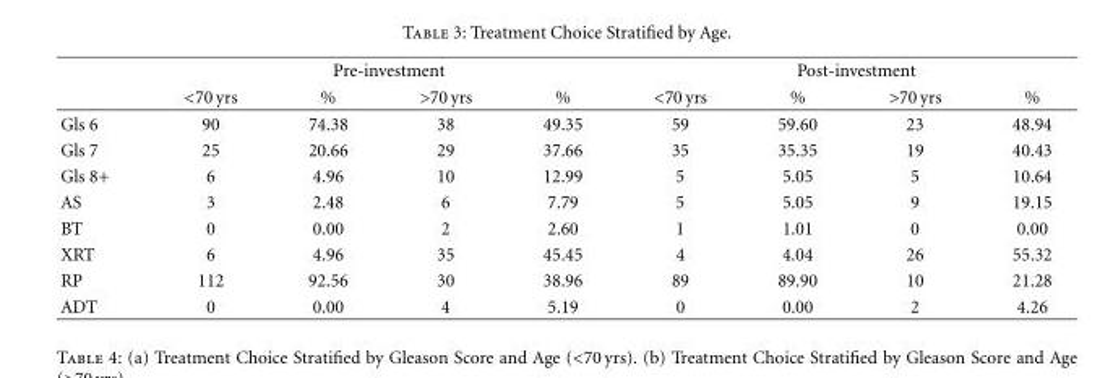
<table><thead><tr><td rowspan="2"></td><td colspan="4">Pre-investment</td><td colspan="4">Post-investment</td></tr><tr><td>&lt;70 yrs</td><td>%</td><td>&gt;70 yrs</td><td>%</td><td>&lt;70 yrs</td><td>%</td><td>&gt;70 yrs</td><td>%</td></tr></thead><tbody><tr><td>Gls 6</td><td>90</td><td>74.38</td><td>38</td><td>49.35</td><td>59</td><td>59.60</td><td>23</td><td>48.94</td></tr><tr><td>Gls 7</td><td>25</td><td>20.66</td><td>29</td><td>37.66</td><td>35</td><td>35.35</td><td>19</td><td>40.43</td></tr><tr><td>Gls 8+</td><td>6</td><td>4.96</td><td>10</td><td>12.99</td><td>5</td><td>5.05</td><td>5</td><td>10.64</td></tr><tr><td>AS</td><td>3</td><td>2.48</td><td>6</td><td>7.79</td><td>5</td><td>5.05</td><td>9</td><td>19.15</td></tr><tr><td>BT</td><td>0</td><td>0.00</td><td>2</td><td>2.60</td><td>1</td><td>1.01</td><td>0</td><td>0.00</td></tr><tr><td>XRT</td><td>6</td><td>4.96</td><td>35</td><td>45.45</td><td>4</td><td>4.04</td><td>26</td><td>55.32</td></tr><tr><td>RP</td><td>112</td><td>92.56</td><td>30</td><td>38.96</td><td>89</td><td>89.90</td><td>10</td><td>21.28</td></tr><tr><td>ADT</td><td>0</td><td>0.00</td><td>4</td><td>5.19</td><td>0</td><td>0.00</td><td>2</td><td>4.26</td></tr></tbody></table>